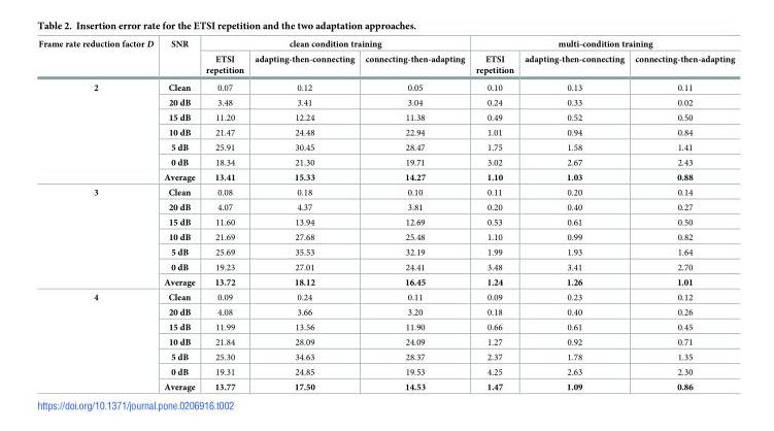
<table><thead><tr><td rowspan="2">Frame rate reduction factor D</td><td rowspan="2">SNR</td><td colspan="3">clean condition training</td><td colspan="3">multi-condition training</td></tr><tr><td>ETSI repetition</td><td>adapting-then-connecting</td><td>connecting-then-adapting</td><td>ETSI repetition</td><td>adapting-then-connecting</td><td>connecting-then-adapting</td></tr></thead><tbody><tr><td rowspan="7">2</td><td>Clean</td><td>0.07</td><td>0.12</td><td>0.05</td><td>0.10</td><td>0.13</td><td>0.11</td></tr><tr><td>20 dB</td><td>3.48</td><td>3.41</td><td>3.04</td><td>0.24</td><td>0.33</td><td>0.02</td></tr><tr><td>15 dB</td><td>11.20</td><td>12.24</td><td>11.38</td><td>0.49</td><td>0.52</td><td>0.50</td></tr><tr><td>10 dB</td><td>21.47</td><td>24.48</td><td>22.94</td><td>1.01</td><td>0.94</td><td>0.84</td></tr><tr><td>5 dB</td><td>25.91</td><td>30.45</td><td>28.47</td><td>1.75</td><td>1.58</td><td>1.41</td></tr><tr><td>0 dB</td><td>18.34</td><td>21.30</td><td>19.71</td><td>3.02</td><td>2.67</td><td>2.43</td></tr><tr><td>Average</td><td>13.41</td><td>15.33</td><td>14.27</td><td>1.10</td><td>1.03</td><td>0.88</td></tr><tr><td rowspan="7">3</td><td>Clean</td><td>0.08</td><td>0.18</td><td>0.10</td><td>0.11</td><td>0.20</td><td>0.14</td></tr><tr><td>20 dB</td><td>4.07</td><td>4.37</td><td>3.81</td><td>0.20</td><td>0.40</td><td>0.27</td></tr><tr><td>15 dB</td><td>11.60</td><td>13.94</td><td>12.69</td><td>0.53</td><td>0.61</td><td>0.50</td></tr><tr><td>10 dB</td><td>21.69</td><td>27.68</td><td>25.48</td><td>1.10</td><td>0.99</td><td>0.82</td></tr><tr><td>5 dB</td><td>25.69</td><td>35.53</td><td>32.19</td><td>1.99</td><td>1.93</td><td>1.64</td></tr><tr><td>0 dB</td><td>19.23</td><td>27.01</td><td>24.41</td><td>3.48</td><td>3.41</td><td>2.70</td></tr><tr><td>Average</td><td>13.72</td><td>18.12</td><td>16.45</td><td>1.24</td><td>1.26</td><td>1.01</td></tr><tr><td rowspan="7">4</td><td>Clean</td><td>0.09</td><td>0.24</td><td>0.11</td><td>0.09</td><td>0.23</td><td>0.12</td></tr><tr><td>20 dB</td><td>4.08</td><td>3.66</td><td>3.20</td><td>0.18</td><td>0.40</td><td>0.26</td></tr><tr><td>15 dB</td><td>11.99</td><td>13.56</td><td>11.90</td><td>0.66</td><td>0.61</td><td>0.45</td></tr><tr><td>10 dB</td><td>21.84</td><td>28.09</td><td>24.09</td><td>1.27</td><td>0.92</td><td>0.71</td></tr><tr><td>5 dB</td><td>25.30</td><td>34.63</td><td>28.37</td><td>2.37</td><td>1.78</td><td>1.35</td></tr><tr><td>0 dB</td><td>19.31</td><td>24.85</td><td>19.53</td><td>4.25</td><td>2.63</td><td>2.30</td></tr><tr><td>Average</td><td>13.77</td><td>17.50</td><td>14.53</td><td>1.47</td><td>1.09</td><td>0.86</td></tr></tbody></table>